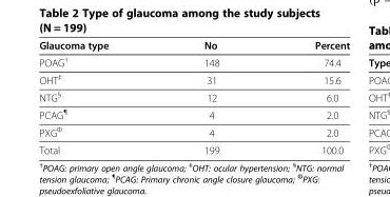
<table><thead><tr><td>Glaucoma type</td><td>No</td><td>Percent</td></tr></thead><tbody><tr><td>POAG<sup>†</sup></td><td>148</td><td>74.4</td></tr><tr><td>OHT<sup>‡</sup></td><td>31</td><td>15.6</td></tr><tr><td>NTG<sup>§</sup></td><td>12</td><td>6.0</td></tr><tr><td>PCAG<sup>¶</sup></td><td>4</td><td>2.0</td></tr><tr><td>PXG<sup>Φ</sup></td><td>4</td><td>2.0</td></tr><tr><td>Total</td><td>199</td><td>100.0</td></tr></tbody></table>